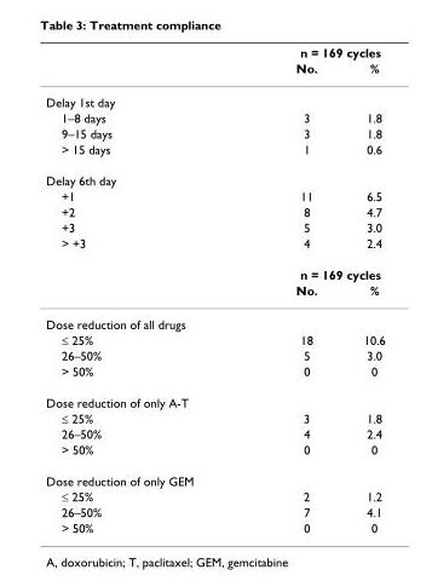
<table><thead><tr><td rowspan="2"></td><td colspan="2">n = 169 cycles</td></tr><tr><td>No.</td><td>%</td></tr></thead><tbody><tr><td colspan="3">Delay 1st day</td></tr><tr><td>1–8 days</td><td>3</td><td>1.8</td></tr><tr><td>9–15 days</td><td>3</td><td>1.8</td></tr><tr><td>&gt; 15 days</td><td>1</td><td>0.6</td></tr><tr><td colspan="3">Delay 6th day</td></tr><tr><td>+1</td><td>11</td><td>6.5</td></tr><tr><td>+2</td><td>8</td><td>4.7</td></tr><tr><td>+3</td><td>5</td><td>3.0</td></tr><tr><td rowspan="3">&gt; +3</td><td>4</td><td>2.4</td></tr><tr><td colspan="2">n = 169 cycles</td></tr><tr><td>No.</td><td>%</td></tr><tr><td colspan="3">Dose reduction of all drugs</td></tr><tr><td>≤ 25%</td><td>18</td><td>10.6</td></tr><tr><td>26–50%</td><td>5</td><td>3.0</td></tr><tr><td>&gt; 50%</td><td>0</td><td>0</td></tr><tr><td colspan="3">Dose reduction of only A-T</td></tr><tr><td>≤ 25%</td><td>3</td><td>1.8</td></tr><tr><td>26–50%</td><td>4</td><td>2.4</td></tr><tr><td>&gt; 50%</td><td>0</td><td>0</td></tr><tr><td colspan="3">Dose reduction of only GEM</td></tr><tr><td>≤ 25%</td><td>2</td><td>1.2</td></tr><tr><td>26–50%</td><td>7</td><td>4.1</td></tr><tr><td>&gt; 50%</td><td>0</td><td>0</td></tr></tbody></table>